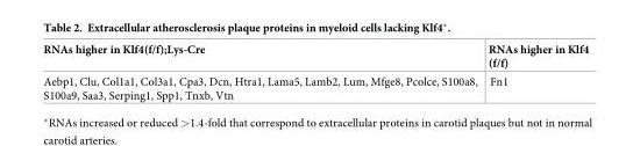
<table><thead><tr><td>RNAs higher in Klf4(f/f);Lys-Cre</td><td>RNAs higher in Klf4 (f/f)</td></tr></thead><tbody><tr><td>Aebp1, Clu, Col1a1, Col3a1, Cpa3, Dcn, Htra1, Lama5, Lamb2, Lum, Mfge8, Pcolce, S100a8, S100a9, Saa3, Serping1, Spp1, Tnxb, Vtn</td><td>Fn1</td></tr></tbody></table>